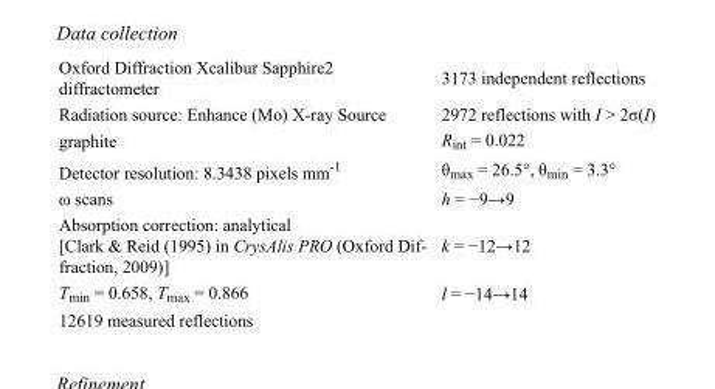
<table><tbody><tr><td>Oxford Diffraction Xcalibur Sapphire2 diffractometer</td><td>3173 independent reflections</td></tr><tr><td>Radiation source: Enhance (Mo) X-ray Source</td><td>2972 reflections with I &gt; 2σ(I)</td></tr><tr><td>graphite</td><td>R<sub>int</sub> = 0.022</td></tr><tr><td>Detector resolution: 8.3438 pixels mm<sup>-1</sup></td><td>θ<sub>max</sub> = 26.5°, θ<sub>min</sub> = 3.3°</td></tr><tr><td>ω scans</td><td>h = −9→9</td></tr><tr><td>Absorption correction: analytical [Clark &amp; Reid (1995) in CrysAlis PRO (Oxford Dif- fraction, 2009)]</td><td>k = −12→12</td></tr><tr><td>T<sub>min</sub> = 0.658, T<sub>max</sub> = 0.866</td><td>l = −14→14</td></tr><tr><td>12619 measured reflections</td><td></td></tr></tbody></table>